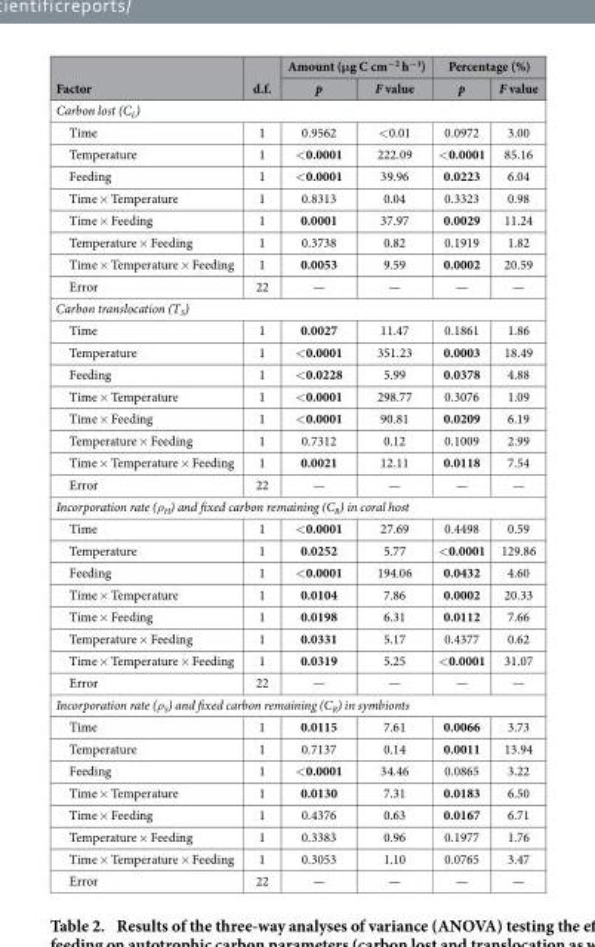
<table><thead><tr><td rowspan="2">Factor</td><td rowspan="2">d.f.</td><td colspan="2">Amount (μg C cm<sup>−2</sup> h<sup>−1</sup>)</td><td colspan="2">Percentage (%)</td></tr><tr><td>p</td><td>F value</td><td>p</td><td>F value</td></tr></thead><tbody><tr><td colspan="6">Carbon lost (C<sub>L</sub>)</td></tr><tr><td>Time</td><td>1</td><td>0.9562</td><td>&lt; 0.01</td><td>0.0972</td><td>3.00</td></tr><tr><td>Temperature</td><td>1</td><td>&lt; 0.0001</td><td>222.09</td><td>&lt; 0.0001</td><td>85.16</td></tr><tr><td>Feeding</td><td>1</td><td>&lt; 0.0001</td><td>39.96</td><td>0.0223</td><td>6.04</td></tr><tr><td>Time × Temperature</td><td>1</td><td>0.8313</td><td>0.04</td><td>0.3323</td><td>0.98</td></tr><tr><td>Time × Feeding</td><td>1</td><td>0.0001</td><td>37.97</td><td>0.0029</td><td>11.24</td></tr><tr><td>Temperature × Feeding</td><td>1</td><td>0.3738</td><td>0.82</td><td>0.1919</td><td>1.82</td></tr><tr><td>Time × Temperature × Feeding</td><td>1</td><td>0.0053</td><td>9.59</td><td>0.0002</td><td>20.59</td></tr><tr><td>Error</td><td>22</td><td>—</td><td>—</td><td>—</td><td>—</td></tr><tr><td colspan="6">Carbon translocation (T<sub>S</sub>)</td></tr><tr><td>Time</td><td>1</td><td>0.0027</td><td>11.47</td><td>0.1861</td><td>1.86</td></tr><tr><td>Temperature</td><td>1</td><td>&lt; 0.0001</td><td>351.23</td><td>0.0003</td><td>18.49</td></tr><tr><td>Feeding</td><td>1</td><td>&lt; 0.0228</td><td>5.99</td><td>0.0378</td><td>4.88</td></tr><tr><td>Time × Temperature</td><td>1</td><td>&lt; 0.0001</td><td>298.77</td><td>0.3076</td><td>1.09</td></tr><tr><td>Time × Feeding</td><td>1</td><td>&lt; 0.0001</td><td>90.81</td><td>0.0209</td><td>6.19</td></tr><tr><td>Temperature × Feeding</td><td>1</td><td>0.7312</td><td>0.12</td><td>0.1009</td><td>2.99</td></tr><tr><td>Time × Temperature × Feeding</td><td>1</td><td>0.0021</td><td>12.11</td><td>0.0118</td><td>7.54</td></tr><tr><td>Error</td><td>22</td><td>—</td><td>—</td><td>—</td><td>—</td></tr><tr><td colspan="6">Incorporation rate (ρ <sub>H</sub>) and fixed carbon remaining (C<sub>R</sub>) in coral host</td></tr><tr><td>Time</td><td>1</td><td>&lt; 0.0001</td><td>27.69</td><td>0.4498</td><td>0.59</td></tr><tr><td>Temperature</td><td>1</td><td>0.0252</td><td>5.77</td><td>&lt; 0.0001</td><td>129.86</td></tr><tr><td>Feeding</td><td>1</td><td>&lt; 0.0001</td><td>194.06</td><td>0.0432</td><td>4.60</td></tr><tr><td>Time × Temperature</td><td>1</td><td>0.0104</td><td>7.86</td><td>0.0002</td><td>20.33</td></tr><tr><td>Time × Feeding</td><td>1</td><td>0.0198</td><td>6.31</td><td>0.0112</td><td>7.66</td></tr><tr><td>Temperature × Feeding</td><td>1</td><td>0.0331</td><td>5.17</td><td>0.4377</td><td>0.62</td></tr><tr><td>Time × Temperature × Feeding</td><td>1</td><td>0.0319</td><td>5.25</td><td>&lt; 0.0001</td><td>31.07</td></tr><tr><td>Error</td><td>22</td><td>—</td><td>—</td><td>—</td><td>—</td></tr><tr><td colspan="6">Incorporation rate (ρ <sub>S</sub>) and fixed carbon remaining (C<sub>R</sub>) in symbionts</td></tr><tr><td>Time</td><td>1</td><td>0.0115</td><td>7.61</td><td>0.0066</td><td>3.73</td></tr><tr><td>Temperature</td><td>1</td><td>0.7137</td><td>0.14</td><td>0.0011</td><td>13.94</td></tr><tr><td>Feeding</td><td>1</td><td>&lt; 0.0001</td><td>34.46</td><td>0.0865</td><td>3.22</td></tr><tr><td>Time × Temperature</td><td>1</td><td>0.0130</td><td>7.31</td><td>0.0183</td><td>6.50</td></tr><tr><td>Time × Feeding</td><td>1</td><td>0.4376</td><td>0.63</td><td>0.0167</td><td>6.71</td></tr><tr><td>Temperature × Feeding</td><td>1</td><td>0.3383</td><td>0.96</td><td>0.1977</td><td>1.76</td></tr><tr><td>Time × Temperature × Feeding</td><td>1</td><td>0.3053</td><td>1.10</td><td>0.0765</td><td>3.47</td></tr><tr><td>Error</td><td>22</td><td>—</td><td>—</td><td>—</td><td>—</td></tr></tbody></table>